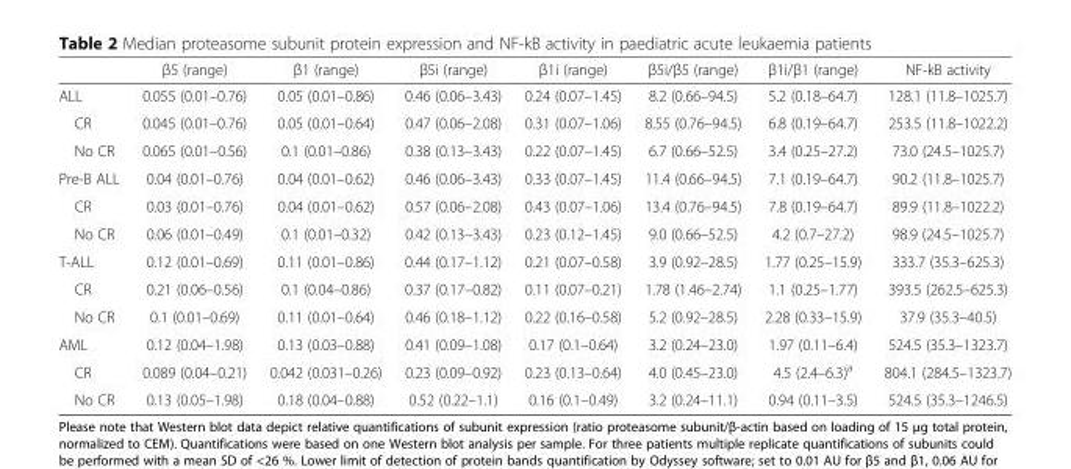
<table><thead><tr><td></td><td>β5 (range)</td><td>β1 (range)</td><td>β5i (range)</td><td>β1i (range)</td><td>β5i/β5 (range)</td><td>β1i/β1 (range)</td><td>NF-kB activity</td></tr></thead><tbody><tr><td>ALL</td><td>0.055 (0.01–0.76)</td><td>0.05 (0.01–0.86)</td><td>0.46 (0.06–3.43)</td><td>0.24 (0.07–1.45)</td><td>8.2 (0.66–94.5)</td><td>5.2 (0.18–64.7)</td><td>128.1 (11.8–1025.7)</td></tr><tr><td>CR</td><td>0.045 (0.01–0.76)</td><td>0.05 (0.01–0.64)</td><td>0.47 (0.06–2.08)</td><td>0.31 (0.07–1.06)</td><td>8.55 (0.76–94.5)</td><td>6.8 (0.19–64.7)</td><td>253.5 (11.8–1022.2)</td></tr><tr><td>No CR</td><td>0.065 (0.01–0.56)</td><td>0.1 (0.01–0.86)</td><td>0.38 (0.13–3.43)</td><td>0.22 (0.07–1.45)</td><td>6.7 (0.66–52.5)</td><td>3.4 (0.25–27.2)</td><td>73.0 (24.5–1025.7)</td></tr><tr><td>Pre-B ALL</td><td>0.04 (0.01–0.76)</td><td>0.04 (0.01–0.62)</td><td>0.46 (0.06–3.43)</td><td>0.33 (0.07–1.45)</td><td>11.4 (0.66–94.5)</td><td>7.1 (0.19–64.7)</td><td>90.2 (11.8–1025.7)</td></tr><tr><td>CR</td><td>0.03 (0.01–0.76)</td><td>0.04 (0.01–0.62)</td><td>0.57 (0.06–2.08)</td><td>0.43 (0.07–1.06)</td><td>13.4 (0.76–94.5)</td><td>7.8 (0.19–64.7)</td><td>89.9 (11.8–1022.2)</td></tr><tr><td>No CR</td><td>0.06 (0.01–0.49)</td><td>0.1 (0.01–0.32)</td><td>0.42 (0.13–3.43)</td><td>0.23 (0.12–1.45)</td><td>9.0 (0.66–52.5)</td><td>4.2 (0.7–27.2)</td><td>98.9 (24.5–1025.7)</td></tr><tr><td>T-ALL</td><td>0.12 (0.01–0.69)</td><td>0.11 (0.01–0.86)</td><td>0.44 (0.17–1.12)</td><td>0.21 (0.07–0.58)</td><td>3.9 (0.92–28.5)</td><td>1.77 (0.25–15.9)</td><td>333.7 (35.3–625.3)</td></tr><tr><td>CR</td><td>0.21 (0.06–0.56)</td><td>0.1 (0.04–0.86)</td><td>0.37 (0.17–0.82)</td><td>0.11 (0.07–0.21)</td><td>1.78 (1.46–2.74)</td><td>1.1 (0.25–1.77)</td><td>393.5 (262.5–625.3)</td></tr><tr><td>No CR</td><td>0.1 (0.01–0.69)</td><td>0.11 (0.01–0.64)</td><td>0.46 (0.18–1.12)</td><td>0.22 (0.16–0.58)</td><td>5.2 (0.92–28.5)</td><td>2.28 (0.33–15.9)</td><td>37.9 (35.3–40.5)</td></tr><tr><td>AML</td><td>0.12 (0.04–1.98)</td><td>0.13 (0.03–0.88)</td><td>0.41 (0.09–1.08)</td><td>0.17 (0.1–0.64)</td><td>3.2 (0.24–23.0)</td><td>1.97 (0.11–6.4)</td><td>524.5 (35.3–1323.7)</td></tr><tr><td>CR</td><td>0.089 (0.04–0.21)</td><td>0.042 (0.031–0.26)</td><td>0.23 (0.09–0.92)</td><td>0.23 (0.13–0.64)</td><td>4.0 (0.45–23.0)</td><td>4.5 (2.4–6.3)<sup>a</sup></td><td>804.1 (284.5–1323.7)</td></tr><tr><td>No CR</td><td>0.13 (0.05–1.98)</td><td>0.18 (0.04–0.88)</td><td>0.52 (0.22–1.1)</td><td>0.16 (0.1–0.49)</td><td>3.2 (0.24–11.1)</td><td>0.94 (0.11–3.5)</td><td>524.5 (35.3–1246.5)</td></tr></tbody></table>